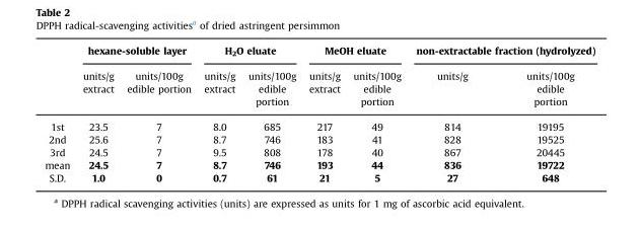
<table><thead><tr><td rowspan="2"></td><td colspan="2">hexane-soluble layer</td><td colspan="2">H<sub>2</sub>O eluate</td><td colspan="2">MeOH eluate</td><td colspan="2">non-extractable fraction (hydrolyzed)</td></tr><tr><td>units/g extract</td><td>units/100g edible portion</td><td>units/g extract</td><td>units/100g edible portion</td><td>units/g extract</td><td>units/100g edible portion</td><td>units/g</td><td>units/100g edible portion</td></tr></thead><tbody><tr><td>1st</td><td>23.5</td><td>7</td><td>8.0</td><td>685</td><td>217</td><td>49</td><td>814</td><td>19195</td></tr><tr><td>2nd</td><td>25.6</td><td>7</td><td>8.7</td><td>746</td><td>183</td><td>41</td><td>828</td><td>19525</td></tr><tr><td>3rd</td><td>24.5</td><td>7</td><td>9.5</td><td>808</td><td>178</td><td>40</td><td>867</td><td>20445</td></tr><tr><td>mean</td><td>24.5</td><td>7</td><td>8.7</td><td>746</td><td>193</td><td>44</td><td>836</td><td>19722</td></tr><tr><td>S.D.</td><td>1.0</td><td>0</td><td>0.7</td><td>61</td><td>21</td><td>5</td><td>27</td><td>648</td></tr></tbody></table>